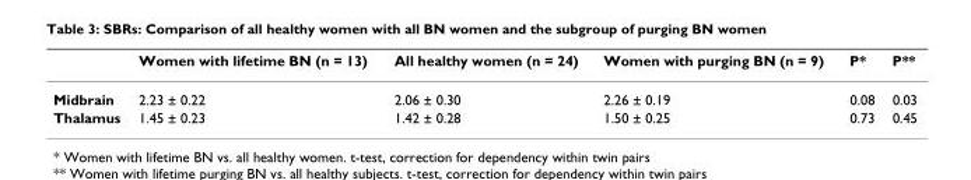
<table><thead><tr><td></td><td>Women with lifetime BN (n = 13)</td><td>All healthy women (n = 24)</td><td>Women with purging BN (n = 9)</td><td>P*</td><td>P**</td></tr></thead><tbody><tr><td>Midbrain</td><td>2.23 ± 0.22</td><td>2.06 ± 0.30</td><td>2.26 ± 0.19</td><td>0.08</td><td>0.03</td></tr><tr><td>Thalamus</td><td>1.45 ± 0.23</td><td>1.42 ± 0.28</td><td>1.50 ± 0.25</td><td>0.73</td><td>0.45</td></tr></tbody></table>